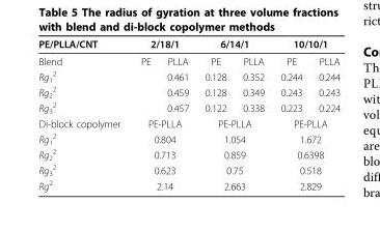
<table><thead><tr><td rowspan="2">PE/PLLA/CNT Blend</td><td colspan="2">2/18/1</td><td colspan="2">6/14/1</td><td colspan="2">10/10/1</td></tr><tr><td>PE</td><td>PLLA</td><td>PE</td><td>PLLA</td><td>PE</td><td>PLLA</td></tr></thead><tbody><tr><td>Rg<sub>1</sub> <sup>2</sup></td><td></td><td>0.461</td><td>0.128</td><td>0.352</td><td>0.244</td><td>0.244</td></tr><tr><td>Rg<sub>2</sub> <sup>2</sup></td><td></td><td>0.459</td><td>0.128</td><td>0.349</td><td>0.243</td><td>0.243</td></tr><tr><td>Rg<sub>3</sub> <sup>2</sup></td><td></td><td>0.457</td><td>0.122</td><td>0.338</td><td>0.223</td><td>0.224</td></tr><tr><td>Di-block copolymer</td><td colspan="2">PE-PLLA</td><td colspan="2">PE-PLLA</td><td colspan="2">PE-PLLA</td></tr><tr><td>Rg<sub>1</sub> <sup>2</sup></td><td colspan="2">0.804</td><td colspan="2">1.054</td><td colspan="2">1.672</td></tr><tr><td>Rg<sub>2</sub> <sup>2</sup></td><td colspan="2">0.713</td><td colspan="2">0.859</td><td colspan="2">0.6398</td></tr><tr><td>Rg<sub>3</sub> <sup>2</sup></td><td colspan="2">0.623</td><td colspan="2">0.75</td><td colspan="2">0.518</td></tr><tr><td>Rg<sup>2</sup></td><td colspan="2">2.14</td><td colspan="2">2.663</td><td colspan="2">2.829</td></tr></tbody></table>